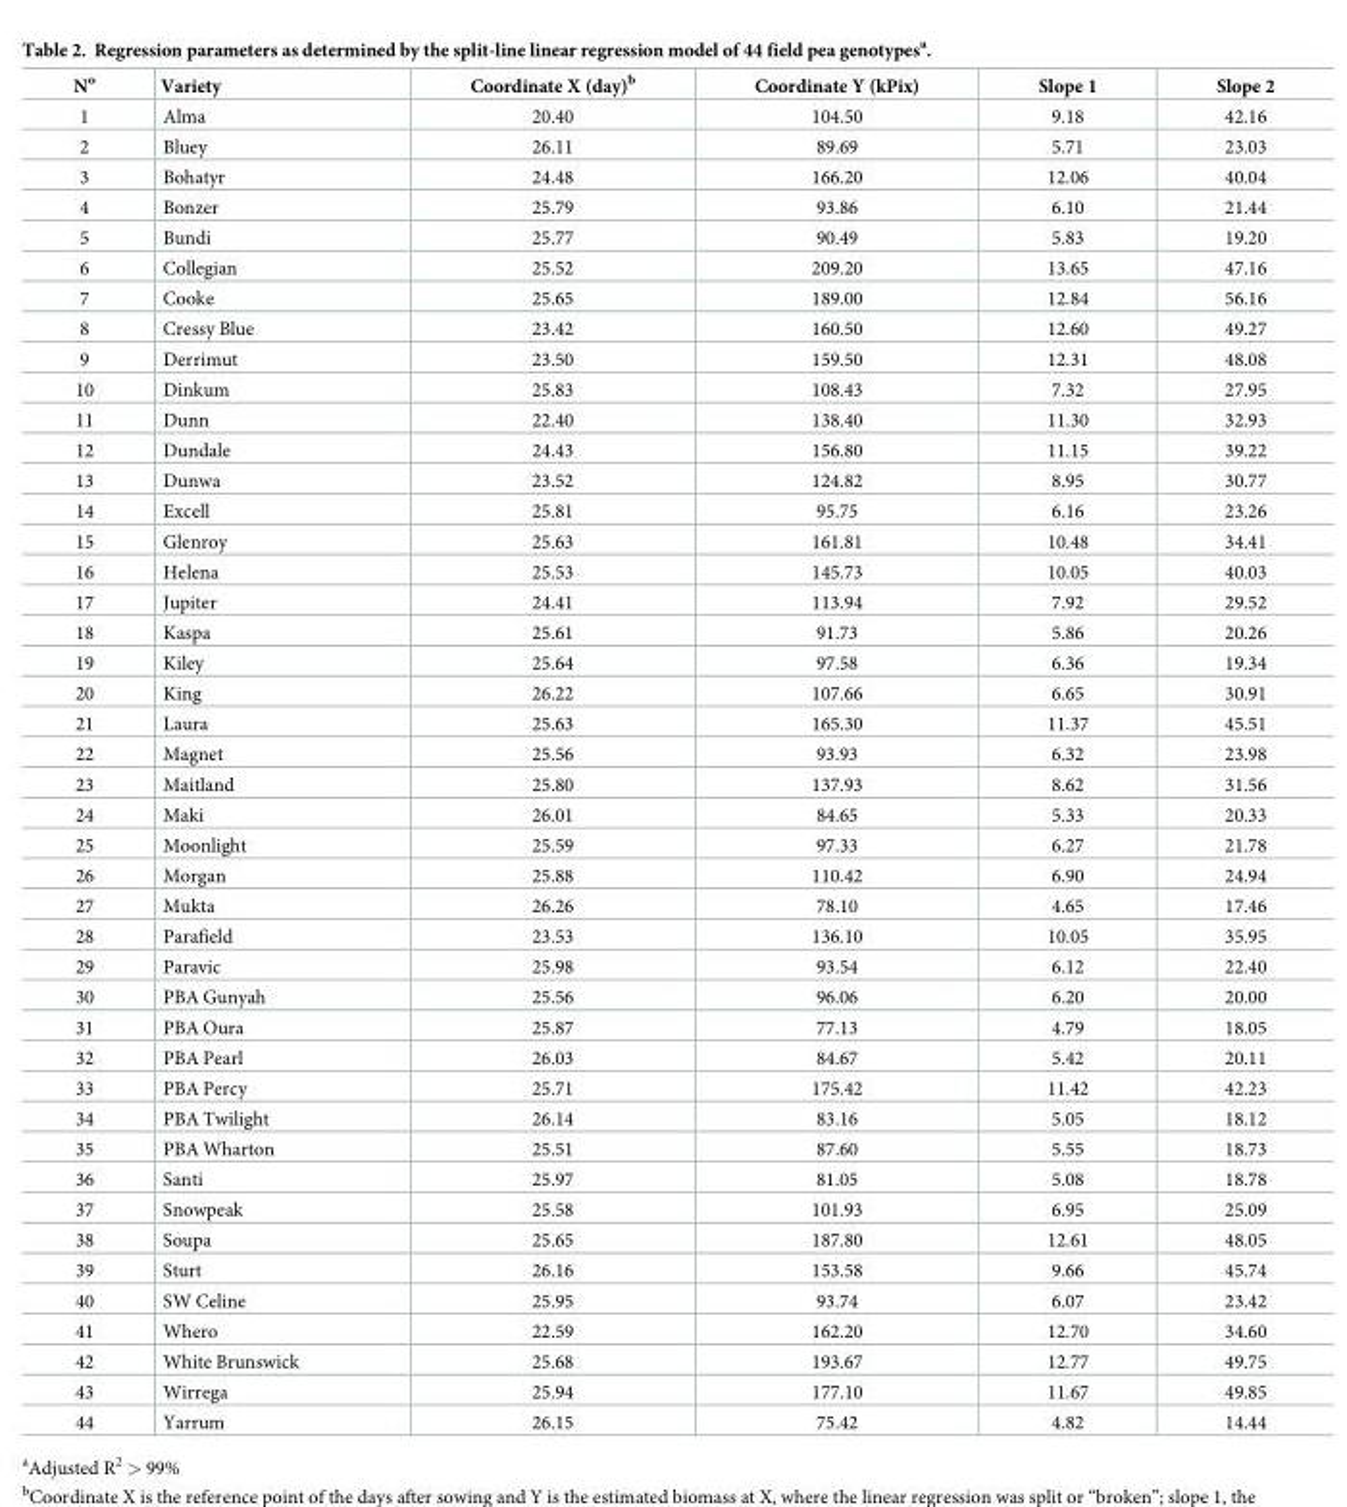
<table><thead><tr><td>N<sup>o</sup></td><td>Variety</td><td>Coordinate X (day)<sup>b</sup></td><td>Coordinate Y (kPix)</td><td>Slope 1</td><td>Slope 2</td></tr></thead><tbody><tr><td>1</td><td>Alma</td><td>20.40</td><td>104.50</td><td>9.18</td><td>42.16</td></tr><tr><td>2</td><td>Bluey</td><td>26.11</td><td>89.69</td><td>5.71</td><td>23.03</td></tr><tr><td>3</td><td>Bohatyr</td><td>24.48</td><td>166.20</td><td>12.06</td><td>40.04</td></tr><tr><td>4</td><td>Bonzer</td><td>25.79</td><td>93.86</td><td>6.10</td><td>21.44</td></tr><tr><td>5</td><td>Bundi</td><td>25.77</td><td>90.49</td><td>5.83</td><td>19.20</td></tr><tr><td>6</td><td>Collegian</td><td>25.52</td><td>209.20</td><td>13.65</td><td>47.16</td></tr><tr><td>7</td><td>Cooke</td><td>25.65</td><td>189.00</td><td>12.84</td><td>56.16</td></tr><tr><td>8</td><td>Cressy Blue</td><td>23.42</td><td>160.50</td><td>12.60</td><td>49.27</td></tr><tr><td>9</td><td>Derrimut</td><td>23.50</td><td>159.50</td><td>12.31</td><td>48.08</td></tr><tr><td>10</td><td>Dinkum</td><td>25.83</td><td>108.43</td><td>7.32</td><td>27.95</td></tr><tr><td>11</td><td>Dunn</td><td>22.40</td><td>138.40</td><td>11.30</td><td>32.93</td></tr><tr><td>12</td><td>Dundale</td><td>24.43</td><td>156.80</td><td>11.15</td><td>39.22</td></tr><tr><td>13</td><td>Dunwa</td><td>23.52</td><td>124.82</td><td>8.95</td><td>30.77</td></tr><tr><td>14</td><td>Excell</td><td>25.81</td><td>95.75</td><td>6.16</td><td>23.26</td></tr><tr><td>15</td><td>Glenroy</td><td>25.63</td><td>161.81</td><td>10.48</td><td>34.41</td></tr><tr><td>16</td><td>Helena</td><td>25.53</td><td>145.73</td><td>10.05</td><td>40.03</td></tr><tr><td>17</td><td>Jupiter</td><td>24.41</td><td>113.94</td><td>7.92</td><td>29.52</td></tr><tr><td>18</td><td>Kaspa</td><td>25.61</td><td>91.73</td><td>5.86</td><td>20.26</td></tr><tr><td>19</td><td>Kiley</td><td>25.64</td><td>97.58</td><td>6.36</td><td>19.34</td></tr><tr><td>20</td><td>King</td><td>26.22</td><td>107.66</td><td>6.65</td><td>30.91</td></tr><tr><td>21</td><td>Laura</td><td>25.63</td><td>165.30</td><td>11.37</td><td>45.51</td></tr><tr><td>22</td><td>Magnet</td><td>25.56</td><td>93.93</td><td>6.32</td><td>23.98</td></tr><tr><td>23</td><td>Maitland</td><td>25.80</td><td>137.93</td><td>8.62</td><td>31.56</td></tr><tr><td>24</td><td>Maki</td><td>26.01</td><td>84.65</td><td>5.33</td><td>20.33</td></tr><tr><td>25</td><td>Moonlight</td><td>25.59</td><td>97.33</td><td>6.27</td><td>21.78</td></tr><tr><td>26</td><td>Morgan</td><td>25.88</td><td>110.42</td><td>6.90</td><td>24.94</td></tr><tr><td>27</td><td>Mukta</td><td>26.26</td><td>78.10</td><td>4.65</td><td>17.46</td></tr><tr><td>28</td><td>Parafield</td><td>23.53</td><td>136.10</td><td>10.05</td><td>35.95</td></tr><tr><td>29</td><td>Paravic</td><td>25.98</td><td>93.54</td><td>6.12</td><td>22.40</td></tr><tr><td>30</td><td>PBA Gunyah</td><td>25.56</td><td>96.06</td><td>6.20</td><td>20.00</td></tr><tr><td>31</td><td>PBA Oura</td><td>25.87</td><td>77.13</td><td>4.79</td><td>18.05</td></tr><tr><td>32</td><td>PBA Pearl</td><td>26.03</td><td>84.67</td><td>5.42</td><td>20.11</td></tr><tr><td>33</td><td>PBA Percy</td><td>25.71</td><td>175.42</td><td>11.42</td><td>42.23</td></tr><tr><td>34</td><td>PBA Twilight</td><td>26.14</td><td>83.16</td><td>5.05</td><td>18.12</td></tr><tr><td>35</td><td>PBA Wharton</td><td>25.51</td><td>87.60</td><td>5.55</td><td>18.73</td></tr><tr><td>36</td><td>Santi</td><td>25.97</td><td>81.05</td><td>5.08</td><td>18.78</td></tr><tr><td>37</td><td>Snowpeak</td><td>25.58</td><td>101.93</td><td>6.95</td><td>25.09</td></tr><tr><td>38</td><td>Soupa</td><td>25.65</td><td>187.80</td><td>12.61</td><td>48.05</td></tr><tr><td>39</td><td>Sturt</td><td>26.16</td><td>153.58</td><td>9.66</td><td>45.74</td></tr><tr><td>40</td><td>SW Celine</td><td>25.95</td><td>93.74</td><td>6.07</td><td>23.42</td></tr><tr><td>41</td><td>Whero</td><td>22.59</td><td>162.20</td><td>12.70</td><td>34.60</td></tr><tr><td>42</td><td>White Brunswick</td><td>25.68</td><td>193.67</td><td>12.77</td><td>49.75</td></tr><tr><td>43</td><td>Wirrega</td><td>25.94</td><td>177.10</td><td>11.67</td><td>49.85</td></tr><tr><td>44</td><td>Yarrum</td><td>26.15</td><td>75.42</td><td>4.82</td><td>14.44</td></tr></tbody></table>